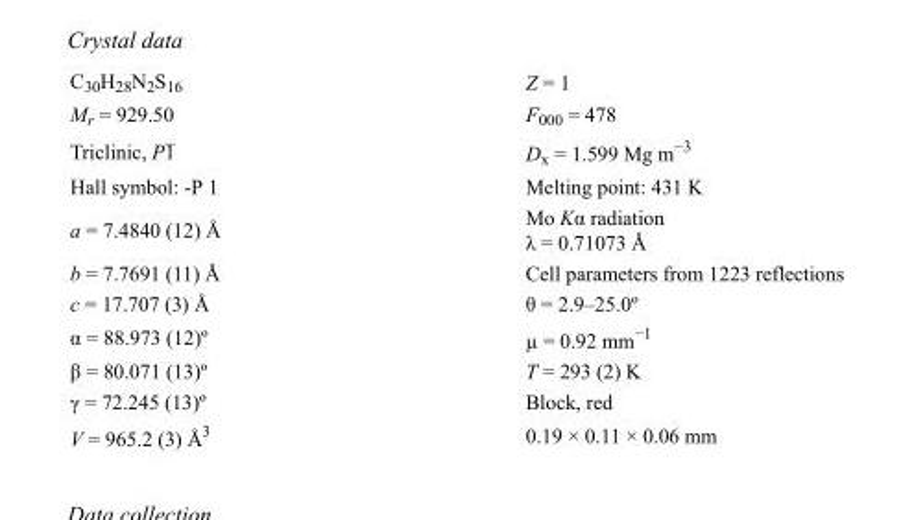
<table><tbody><tr><td>C<sub>30</sub>H<sub>28</sub>N<sub>2</sub>S<sub>16</sub></td><td>Z = 1</td></tr><tr><td>M<sub>r</sub> = 929.50</td><td>F<sub>000</sub> = 478</td></tr><tr><td>Triclinic, P1</td><td>D<sub>x</sub> = 1.599 Mg m<sup>−3</sup></td></tr><tr><td>Hall symbol: -P 1</td><td>Melting point: 431 K</td></tr><tr><td>a = 7.4840 (12) Å</td><td>Mo Kα radiation λ = 0.71073 Å</td></tr><tr><td>b = 7.7691 (11) Å</td><td>Cell parameters from 1223 reflections</td></tr><tr><td>c = 17.707 (3) Å</td><td>θ = 2.9–25.0º</td></tr><tr><td>α = 88.973 (12)º</td><td>µ = 0.92 mm<sup>−1</sup></td></tr><tr><td>β = 80.071 (13)º</td><td>T = 293 (2) K</td></tr><tr><td>γ = 72.245 (13)º</td><td>Block, red</td></tr><tr><td>V = 965.2 (3) Å<sup>3</sup></td><td>0.19 × 0.11 × 0.06 mm</td></tr></tbody></table>